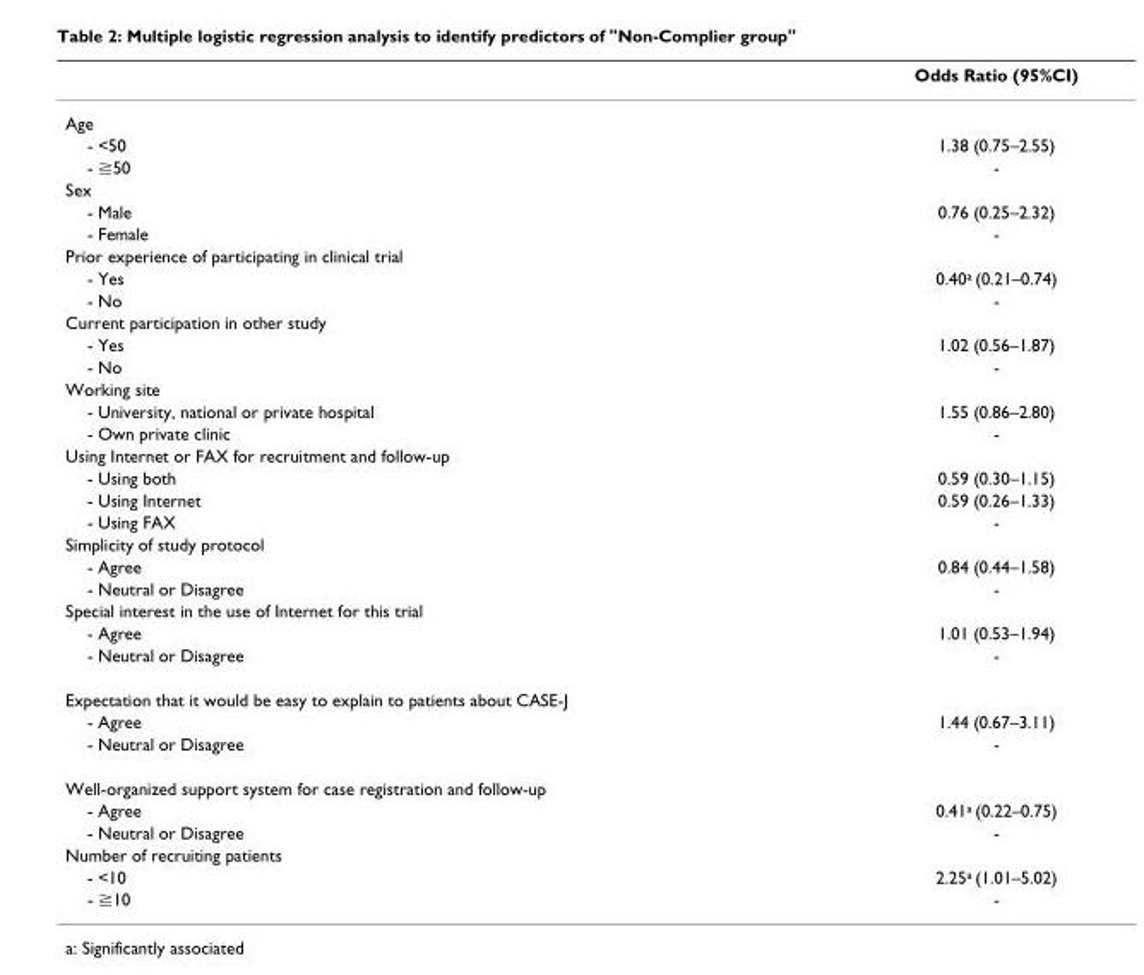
<table><thead><tr><td></td><td>Odds Ratio (95%CI)</td></tr></thead><tbody><tr><td colspan="2">Age</td></tr><tr><td>- &lt;50</td><td>1.38 (0.75–2.55)</td></tr><tr><td>- ≧50</td><td>-</td></tr><tr><td colspan="2">Sex</td></tr><tr><td>- Male</td><td>0.76 (0.25–2.32)</td></tr><tr><td>- Female</td><td>-</td></tr><tr><td colspan="2">Prior experience of participating in clinical trial</td></tr><tr><td>- Yes</td><td>0.40<sup>a</sup> (0.21–0.74)</td></tr><tr><td>- No</td><td>-</td></tr><tr><td colspan="2">Current participation in other study</td></tr><tr><td>- Yes</td><td>1.02 (0.56–1.87)</td></tr><tr><td>- No</td><td>-</td></tr><tr><td colspan="2">Working site</td></tr><tr><td>- University, national or private hospital</td><td>1.55 (0.86–2.80)</td></tr><tr><td>- Own private clinic</td><td>-</td></tr><tr><td colspan="2">Using Internet or FAX for recruitment and follow-up</td></tr><tr><td>- Using both</td><td>0.59 (0.30–1.15)</td></tr><tr><td>- Using Internet</td><td>0.59 (0.26–1.33)</td></tr><tr><td>- Using FAX</td><td>-</td></tr><tr><td colspan="2">Simplicity of study protocol</td></tr><tr><td>- Agree</td><td>0.84 (0.44–1.58)</td></tr><tr><td>- Neutral or Disagree</td><td>-</td></tr><tr><td colspan="2">Special interest in the use of Internet for this trial</td></tr><tr><td>- Agree</td><td>1.01 (0.53–1.94)</td></tr><tr><td>- Neutral or Disagree</td><td>-</td></tr><tr><td colspan="2">Expectation that it would be easy to explain to patients about CASE-J</td></tr><tr><td>- Agree</td><td>1.44 (0.67–3.11)</td></tr><tr><td>- Neutral or Disagree</td><td>-</td></tr><tr><td colspan="2">Well-organized support system for case registration and follow-up</td></tr><tr><td>- Agree</td><td>0.41<sup>a</sup> (0.22–0.75)</td></tr><tr><td>- Neutral or Disagree</td><td>-</td></tr><tr><td colspan="2">Number of recruiting patients</td></tr><tr><td>- &lt;10</td><td>2.25<sup>a</sup> (1.01–5.02)</td></tr><tr><td>- ≧10</td><td>-</td></tr></tbody></table>